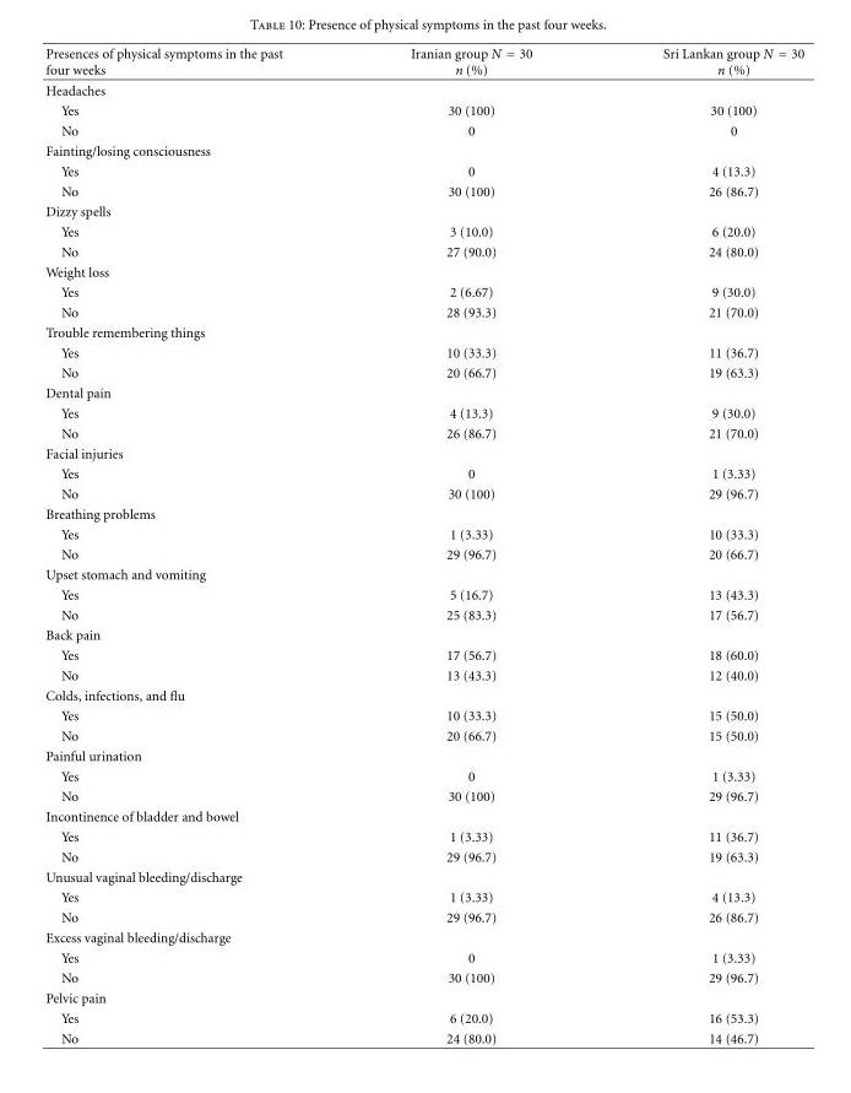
<table><thead><tr><td>Presences of physical symptoms in the past four weeks</td><td>Iranian group N = 30 n (%)</td><td>Sri Lankan group N = 30 n (%)</td></tr></thead><tbody><tr><td colspan="3">Headaches</td></tr><tr><td>Yes</td><td>30 (100)</td><td>30 (100)</td></tr><tr><td>No</td><td>0</td><td>0</td></tr><tr><td colspan="3">Fainting/losing consciousness</td></tr><tr><td>Yes</td><td>0</td><td>4 (13.3)</td></tr><tr><td>No</td><td>30 (100)</td><td>26 (86.7)</td></tr><tr><td colspan="3">Dizzy spells</td></tr><tr><td>Yes</td><td>3 (10.0)</td><td>6 (20.0)</td></tr><tr><td>No</td><td>27 (90.0)</td><td>24 (80.0)</td></tr><tr><td colspan="3">Weight loss</td></tr><tr><td>Yes</td><td>2 (6.67)</td><td>9 (30.0)</td></tr><tr><td>No</td><td>28 (93.3)</td><td>21 (70.0)</td></tr><tr><td colspan="3">Trouble remembering things</td></tr><tr><td>Yes</td><td>10 (33.3)</td><td>11 (36.7)</td></tr><tr><td>No</td><td>20 (66.7)</td><td>19 (63.3)</td></tr><tr><td colspan="3">Dental pain</td></tr><tr><td>Yes</td><td>4 (13.3)</td><td>9 (30.0)</td></tr><tr><td>No</td><td>26 (86.7)</td><td>21 (70.0)</td></tr><tr><td colspan="3">Facial injuries</td></tr><tr><td>Yes</td><td>0</td><td>1 (3.33)</td></tr><tr><td>No</td><td>30 (100)</td><td>29 (96.7)</td></tr><tr><td colspan="3">Breathing problems</td></tr><tr><td>Yes</td><td>1 (3.33)</td><td>10 (33.3)</td></tr><tr><td>No</td><td>29 (96.7)</td><td>20 (66.7)</td></tr><tr><td colspan="3">Upset stomach and vomiting</td></tr><tr><td>Yes</td><td>5 (16.7)</td><td>13 (43.3)</td></tr><tr><td>No</td><td>25 (83.3)</td><td>17 (56.7)</td></tr><tr><td colspan="3">Back pain</td></tr><tr><td>Yes</td><td>17 (56.7)</td><td>18 (60.0)</td></tr><tr><td>No</td><td>13 (43.3)</td><td>12 (40.0)</td></tr><tr><td colspan="3">Colds, infections, and flu</td></tr><tr><td>Yes</td><td>10 (33.3)</td><td>15 (50.0)</td></tr><tr><td>No</td><td>20 (66.7)</td><td>15 (50.0)</td></tr><tr><td colspan="3">Painful urination</td></tr><tr><td>Yes</td><td>0</td><td>1 (3.33)</td></tr><tr><td>No</td><td>30 (100)</td><td>29 (96.7)</td></tr><tr><td colspan="3">Incontinence of bladder and bowel</td></tr><tr><td>Yes</td><td>1 (3.33)</td><td>11 (36.7)</td></tr><tr><td>No</td><td>29 (96.7)</td><td>19 (63.3)</td></tr><tr><td colspan="3">Unusual vaginal bleeding/discharge</td></tr><tr><td>Yes</td><td>1 (3.33)</td><td>4 (13.3)</td></tr><tr><td>No</td><td>29 (96.7)</td><td>26 (86.7)</td></tr><tr><td colspan="3">Excess vaginal bleeding/discharge</td></tr><tr><td>Yes</td><td>0</td><td>1 (3.33)</td></tr><tr><td>No</td><td>30 (100)</td><td>29 (96.7)</td></tr><tr><td colspan="3">Pelvic pain</td></tr><tr><td>Yes</td><td>6 (20.0)</td><td>16 (53.3)</td></tr><tr><td>No</td><td>24 (80.0)</td><td>14 (46.7)</td></tr></tbody></table>